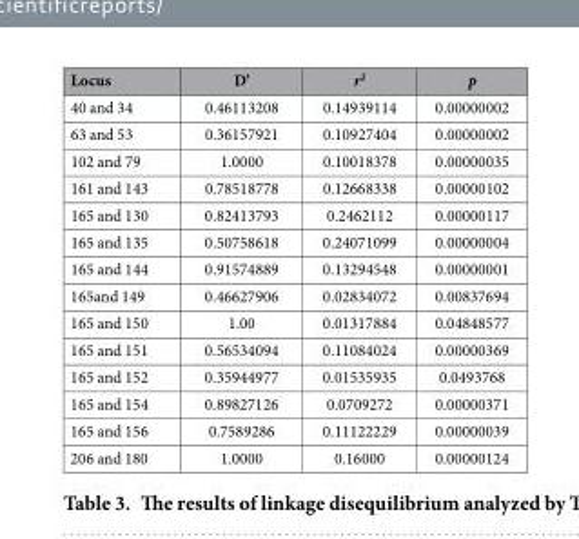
<table><thead><tr><td>Locus</td><td>D’</td><td>r<sup>2</sup></td><td>p</td></tr></thead><tbody><tr><td>40 and 34</td><td>0.46113208</td><td>0.14939114</td><td>0.00000002</td></tr><tr><td>63 and 53</td><td>0.36157921</td><td>0.10927404</td><td>0.00000002</td></tr><tr><td>102 and 79</td><td>1.0000</td><td>0.10018378</td><td>0.00000035</td></tr><tr><td>161 and 143</td><td>0.78518778</td><td>0.12668338</td><td>0.00000102</td></tr><tr><td>165 and 130</td><td>0.82413793</td><td>0.2462112</td><td>0.00000117</td></tr><tr><td>165 and 135</td><td>0.50758618</td><td>0.24071099</td><td>0.00000004</td></tr><tr><td>165 and 144</td><td>0.91574889</td><td>0.13294548</td><td>0.00000001</td></tr><tr><td>165and 149</td><td>0.46627906</td><td>0.02834072</td><td>0.00837694</td></tr><tr><td>165 and 150</td><td>1.00</td><td>0.01317884</td><td>0.04848577</td></tr><tr><td>165 and 151</td><td>0.56534094</td><td>0.11084024</td><td>0.00000369</td></tr><tr><td>165 and 152</td><td>0.35944977</td><td>0.01535935</td><td>0.0493768</td></tr><tr><td>165 and 154</td><td>0.89827126</td><td>0.0709272</td><td>0.00000371</td></tr><tr><td>165 and 156</td><td>0.7589286</td><td>0.11122229</td><td>0.00000039</td></tr><tr><td>206 and 180</td><td>1.0000</td><td>0.16000</td><td>0.00000124</td></tr></tbody></table>